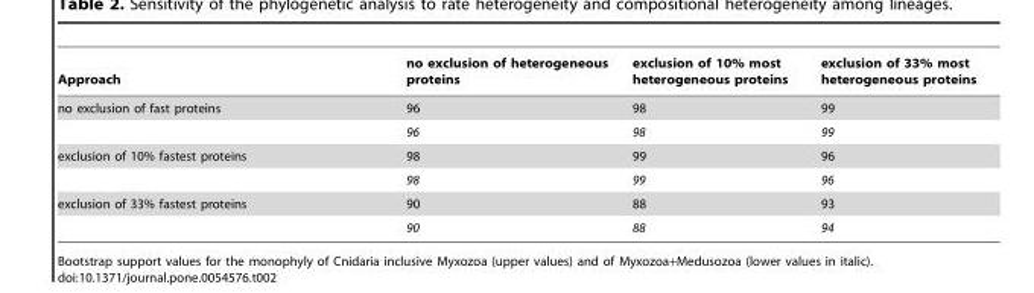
<table><thead><tr><td>Approach</td><td>no exclusion of heterogeneous proteins</td><td>exclusion of 10% most heterogeneous proteins</td><td>exclusion of 33% most heterogeneous proteins</td></tr></thead><tbody><tr><td rowspan="2">no exclusion of fast proteins</td><td>96</td><td>98</td><td>99</td></tr><tr><td>96</td><td>98</td><td>99</td></tr><tr><td rowspan="2">exclusion of 10% fastest proteins</td><td>98</td><td>99</td><td>96</td></tr><tr><td>98</td><td>99</td><td>96</td></tr><tr><td rowspan="2">exclusion of 33% fastest proteins</td><td>90</td><td>88</td><td>93</td></tr><tr><td>90</td><td>88</td><td>94</td></tr></tbody></table>